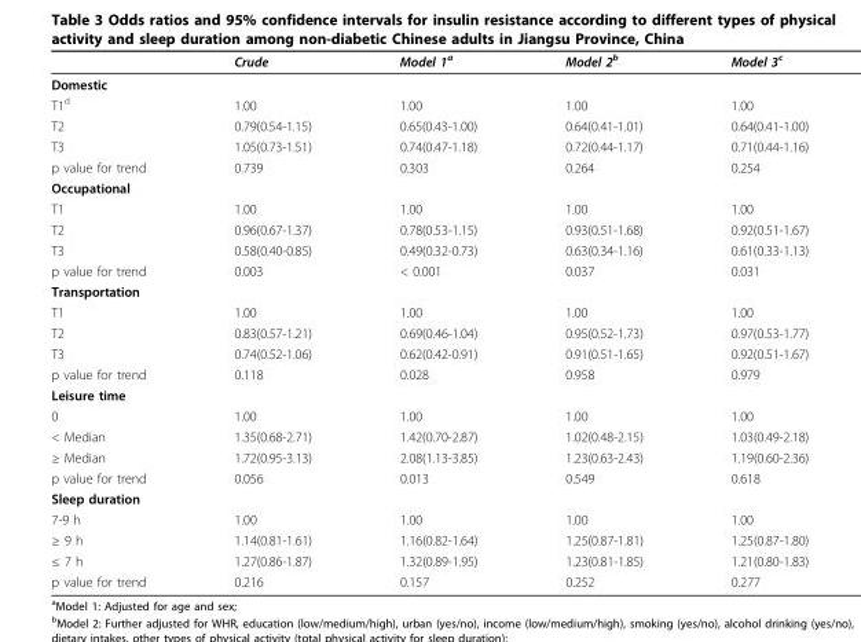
<table><thead><tr><td></td><td>Crude</td><td>Model 1<sup>a</sup></td><td>Model 2<sup>b</sup></td><td>Model 3<sup>c</sup></td></tr></thead><tbody><tr><td colspan="5">Domestic</td></tr><tr><td>T1<sup>d</sup></td><td>1.00</td><td>1.00</td><td>1.00</td><td>1.00</td></tr><tr><td>T2</td><td>0.79(0.54-1.15)</td><td>0.65(0.43-1.00)</td><td>0.64(0.41-1.01)</td><td>0.64(0.41-1.00)</td></tr><tr><td>T3</td><td>1.05(0.73-1.51)</td><td>0.74(0.47-1.18)</td><td>0.72(0.44-1.17)</td><td>0.71(0.44-1.16)</td></tr><tr><td>p value for trend</td><td>0.739</td><td>0.303</td><td>0.264</td><td>0.254</td></tr><tr><td colspan="5">Occupational</td></tr><tr><td>T1</td><td>1.00</td><td>1.00</td><td>1.00</td><td>1.00</td></tr><tr><td>T2</td><td>0.96(0.67-1.37)</td><td>0.78(0.53-1.15)</td><td>0.93(0.51-1.68)</td><td>0.92(0.51-1.67)</td></tr><tr><td>T3</td><td>0.58(0.40-0.85)</td><td>0.49(0.32-0.73)</td><td>0.63(0.34-1.16)</td><td>0.61(0.33-1.13)</td></tr><tr><td>p value for trend</td><td>0.003</td><td>&lt; 0.001</td><td>0.037</td><td>0.031</td></tr><tr><td colspan="5">Transportation</td></tr><tr><td>T1</td><td>1.00</td><td>1.00</td><td>1.00</td><td>1.00</td></tr><tr><td>T2</td><td>0.83(0.57-1.21)</td><td>0.69(0.46-1.04)</td><td>0.95(0.52-1.73)</td><td>0.97(0.53-1.77)</td></tr><tr><td>T3</td><td>0.74(0.52-1.06)</td><td>0.62(0.42-0.91)</td><td>0.91(0.51-1.65)</td><td>0.92(0.51-1.67)</td></tr><tr><td>p value for trend</td><td>0.118</td><td>0.028</td><td>0.958</td><td>0.979</td></tr><tr><td colspan="5">Leisure time</td></tr><tr><td>0</td><td>1.00</td><td>1.00</td><td>1.00</td><td>1.00</td></tr><tr><td>&lt; Median</td><td>1.35(0.68-2.71)</td><td>1.42(0.70-2.87)</td><td>1.02(0.48-2.15)</td><td>1.03(0.49-2.18)</td></tr><tr><td>≥ Median</td><td>1.72(0.95-3.13)</td><td>2.08(1.13-3.85)</td><td>1.23(0.63-2.43)</td><td>1.19(0.60-2.36)</td></tr><tr><td>p value for trend</td><td>0.056</td><td>0.013</td><td>0.549</td><td>0.618</td></tr><tr><td colspan="5">Sleep duration</td></tr><tr><td>7-9 h</td><td>1.00</td><td>1.00</td><td>1.00</td><td>1.00</td></tr><tr><td>≥ 9 h</td><td>1.14(0.81-1.61)</td><td>1.16(0.82-1.64)</td><td>1.25(0.87-1.81)</td><td>1.25(0.87-1.80)</td></tr><tr><td>≤ 7 h</td><td>1.27(0.86-1.87)</td><td>1.32(0.89-1.95)</td><td>1.23(0.81-1.85)</td><td>1.21(0.80-1.83)</td></tr><tr><td>p value for trend</td><td>0.216</td><td>0.157</td><td>0.252</td><td>0.277</td></tr></tbody></table>